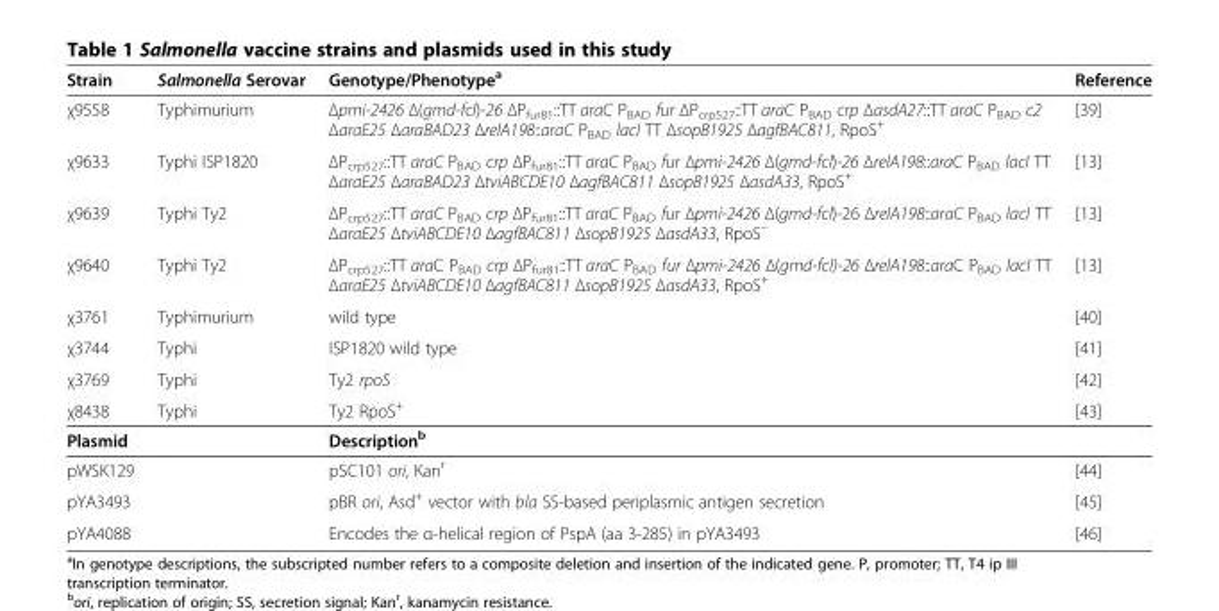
<table><thead><tr><td>Strain</td><td>Salmonella Serovar</td><td>Genotype/Phenotype<sup>a</sup></td><td>Reference</td></tr></thead><tbody><tr><td>χ9558</td><td>Typhimurium</td><td>Δpmi-2426 Δ(gmd-fcl)-26 ΔPfur81::TT araC PBAD fur ΔPcrp527::TT araC PBAD crp ΔasdA27::TT araC PBAD c2 ΔaraE25 ΔaraBAD23 ΔrelA198::araC PBAD lacI TT ΔsopB1925 ΔagfBAC811, RpoS+</td><td>[39]</td></tr><tr><td>χ9633</td><td>Typhi ISP1820</td><td>ΔPcrp527::TT araC PBAD crp ΔPfur81::TT araC PBAD fur Δpmi-2426 Δ(gmd-fcl)-26 ΔrelA198::araC PBAD lacI TT ΔaraE25 ΔaraBAD23 ΔtviABCDE10 ΔagfBAC811 ΔsopB1925 ΔasdA33, RpoS+</td><td>[13]</td></tr><tr><td>χ9639</td><td>Typhi Ty2</td><td>ΔPcrp527::TT araC PBAD crp ΔPfur81::TT araC PBAD fur Δpmi-2426 Δ(gmd-fcl)-26 ΔrelA198::araC PBAD lacI TT ΔaraE25 ΔtviABCDE10 ΔagfBAC811 ΔsopB1925 ΔasdA33, RpoS−</td><td>[13]</td></tr><tr><td>χ9640</td><td>Typhi Ty2</td><td>ΔPcrp527::TT araC PBAD crp ΔPfur81::TT araC PBAD fur Δpmi-2426 Δ(gmd-fcl)-26 ΔrelA198::araC PBAD lacI TT ΔaraE25 ΔtviABCDE10 ΔagfBAC811 ΔsopB1925 ΔasdA33, RpoS+</td><td>[13]</td></tr><tr><td>χ3761</td><td>Typhimurium</td><td>wild type</td><td>[40]</td></tr><tr><td>χ3744</td><td>Typhi</td><td>ISP1820 wild type</td><td>[41]</td></tr><tr><td>χ3769</td><td>Typhi</td><td>Ty2 rpoS</td><td>[42]</td></tr><tr><td>χ8438</td><td>Typhi</td><td>Ty2 RpoS<sup>+</sup></td><td>[43]</td></tr><tr><td>Plasmid</td><td></td><td>Description<sup>b</sup></td><td></td></tr><tr><td>pWSK129</td><td></td><td>pSC101 ori, Kan<sup>r</sup></td><td>[44]</td></tr><tr><td>pYA3493</td><td></td><td>pBR ori, Asd<sup>+</sup> vector with bla SS-based periplasmic antigen secretion</td><td>[45]</td></tr><tr><td>pYA4088</td><td></td><td>Encodes the α-helical region of PspA (aa 3-285) in pYA3493</td><td>[46]</td></tr></tbody></table>